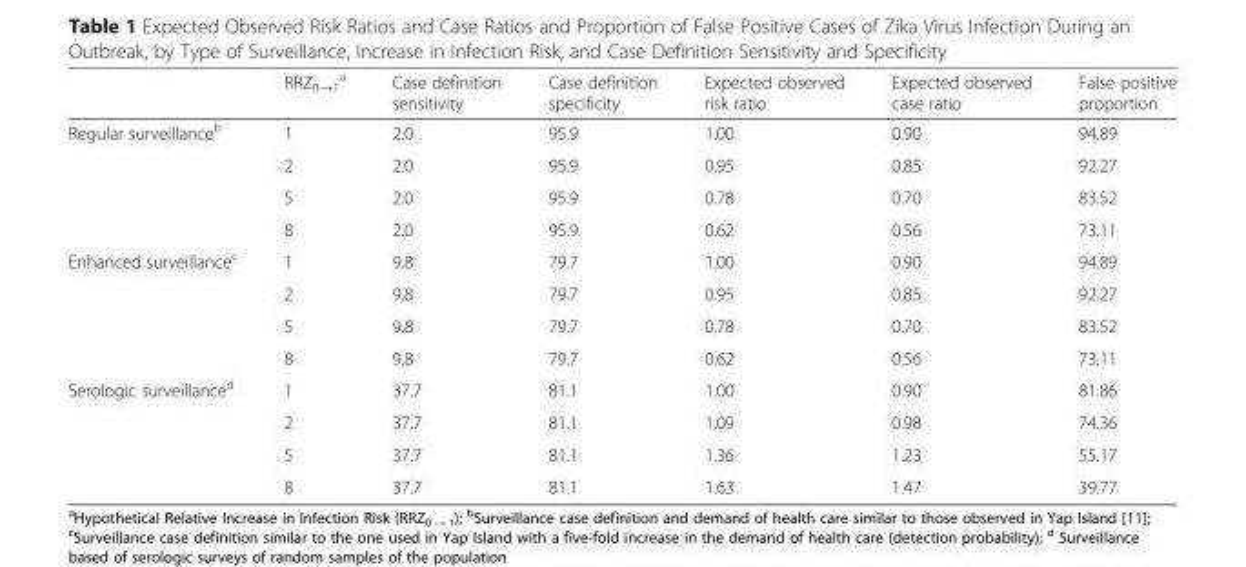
<table><thead><tr><td></td><td>RRZ<sub>0→1</sub> <sup>a</sup></td><td>Case definition sensitivity</td><td>Case definition specificity</td><td>Expected observed risk ratio</td><td>Expected observed case ratio</td><td>False positive proportion</td></tr></thead><tbody><tr><td rowspan="4">Regular surveillance<sup>b</sup></td><td>1</td><td>2.0</td><td>95.9</td><td>1.00</td><td>0.90</td><td>94.89</td></tr><tr><td>2</td><td>2.0</td><td>95.9</td><td>0.95</td><td>0.85</td><td>92.27</td></tr><tr><td>5</td><td>2.0</td><td>95.9</td><td>0.78</td><td>0.70</td><td>83.52</td></tr><tr><td>8</td><td>2.0</td><td>95.9</td><td>0.62</td><td>0.56</td><td>73.11</td></tr><tr><td rowspan="4">Enhanced surveillance<sup>c</sup></td><td>1</td><td>9.8</td><td>79.7</td><td>1.00</td><td>0.90</td><td>94.89</td></tr><tr><td>2</td><td>9.8</td><td>79.7</td><td>0.95</td><td>0.85</td><td>92.27</td></tr><tr><td>5</td><td>9.8</td><td>79.7</td><td>0.78</td><td>0.70</td><td>83.52</td></tr><tr><td>8</td><td>9.8</td><td>79.7</td><td>0.62</td><td>0.56</td><td>73.11</td></tr><tr><td rowspan="4">Serologic surveillance<sup>d</sup></td><td>1</td><td>37.7</td><td>81.1</td><td>1.00</td><td>0.90</td><td>81.86</td></tr><tr><td>2</td><td>37.7</td><td>81.1</td><td>1.09</td><td>0.98</td><td>74.36</td></tr><tr><td>5</td><td>37.7</td><td>81.1</td><td>1.36</td><td>1.23</td><td>55.17</td></tr><tr><td>8</td><td>37.7</td><td>81.1</td><td>1.63</td><td>1.47</td><td>39.77</td></tr></tbody></table>